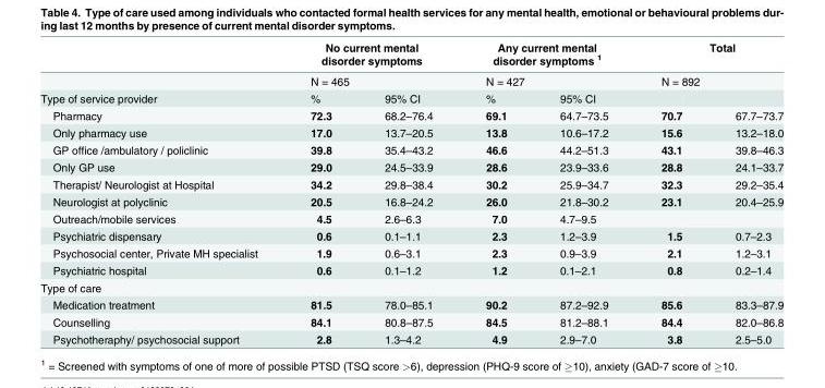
<table><thead><tr><td rowspan="3">Type of service provider</td><td rowspan="2" colspan="2">No current mental disorder symptoms N = 465</td><td rowspan="2" colspan="2">Any current mental disorder symptoms <sup>1</sup> N = 427</td><td rowspan="2" colspan="2">Total N = 892</td></tr><tr></tr><tr><td>%</td><td>95% CI</td><td>%</td><td>95% CI</td><td></td><td></td></tr></thead><tbody><tr><td>Pharmacy</td><td>72.3</td><td>68.2–76.4</td><td>69.1</td><td>64.7–73.5</td><td>70.7</td><td>67.7–73.7</td></tr><tr><td>Only pharmacy use</td><td>17.0</td><td>13.7–20.5</td><td>13.8</td><td>10.6–17.2</td><td>15.6</td><td>13.2–18.0</td></tr><tr><td>GP office /ambulatory / policlinic</td><td>39.8</td><td>35.4–43.2</td><td>46.6</td><td>44.2–51.3</td><td>43.1</td><td>39.8–46.3</td></tr><tr><td>Only GP use</td><td>29.0</td><td>24.5–33.9</td><td>28.6</td><td>23.9–33.6</td><td>28.8</td><td>24.1–33.7</td></tr><tr><td>Therapist/ Neurologist at Hospital</td><td>34.2</td><td>29.8–38.4</td><td>30.2</td><td>25.9–34.7</td><td>32.3</td><td>29.2–35.4</td></tr><tr><td>Neurologist at polyclinic</td><td>20.5</td><td>16.8–24.2</td><td>26.0</td><td>21.8–30.2</td><td>23.1</td><td>20.4–25.9</td></tr><tr><td>Outreach/mobile services</td><td>4.5</td><td>2.6–6.3</td><td>7.0</td><td>4.7–9.5</td><td></td><td></td></tr><tr><td>Psychiatric dispensary</td><td>0.6</td><td>0.1–1.1</td><td>2.3</td><td>1.2–3.9</td><td>1.5</td><td>0.7–2.3</td></tr><tr><td>Psychosocial center, Private MH specialist</td><td>1.9</td><td>0.6–3.1</td><td>2.3</td><td>0.9–3.9</td><td>2.1</td><td>1.2–3.1</td></tr><tr><td>Psychiatric hospital</td><td>0.6</td><td>0.1–1.2</td><td>1.2</td><td>0.1–2.1</td><td>0.8</td><td>0.2–1.4</td></tr><tr><td colspan="7">Type of care</td></tr><tr><td>Medication treatment</td><td>81.5</td><td>78.0–85.1</td><td>90.2</td><td>87.2–92.9</td><td>85.6</td><td>83.3–87.9</td></tr><tr><td>Counselling</td><td>84.1</td><td>80.8–87.5</td><td>84.5</td><td>81.2–88.1</td><td>84.4</td><td>82.0–86.8</td></tr><tr><td>Psychotheraphy/ psychosocial support</td><td>2.8</td><td>1.3–4.2</td><td>4.9</td><td>2.9–7.0</td><td>3.8</td><td>2.5–5.0</td></tr></tbody></table>